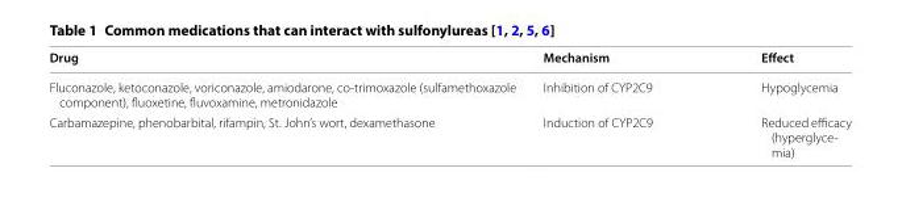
<table><thead><tr><td>Drug</td><td>Mechanism</td><td>Effect</td></tr></thead><tbody><tr><td>Fluconazole, ketoconazole, voriconazole, amiodarone, co-trimoxazole (sulfamethoxazole component), fluoxetine, fluvoxamine, metronidazole</td><td>Inhibition of CYP2C9</td><td>Hypoglycemia</td></tr><tr><td>Carbamazepine, phenobarbital, rifampin, St. John’s wort, dexamethasone</td><td>Induction of CYP2C9</td><td>Reduced efficacy (hyperglyce- mia)</td></tr></tbody></table>